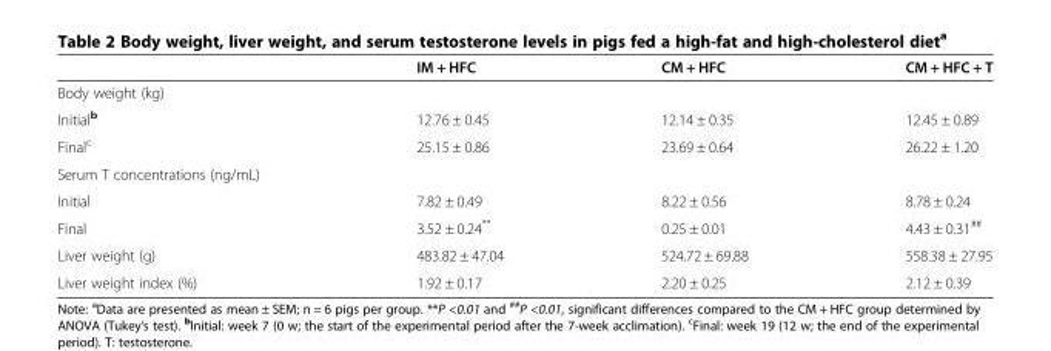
<table><thead><tr><td></td><td>IM + HFC</td><td>CM + HFC</td><td>CM + HFC + T</td></tr></thead><tbody><tr><td colspan="4">Body weight (kg)</td></tr><tr><td>Initial<sup>b</sup></td><td>12.76 ± 0.45</td><td>12.14 ± 0.35</td><td>12.45 ± 0.89</td></tr><tr><td>Final<sup>c</sup></td><td>25.15 ± 0.86</td><td>23.69 ± 0.64</td><td>26.22 ± 1.20</td></tr><tr><td colspan="4">Serum T concentrations (ng/mL)</td></tr><tr><td>Initial</td><td>7.82 ± 0.49</td><td>8.22 ± 0.56</td><td>8.78 ± 0.24</td></tr><tr><td>Final</td><td>3.52 ± 0.24**</td><td>0.25 ± 0.01</td><td>4.43 ± 0.31<sup>##</sup></td></tr><tr><td>Liver weight (g)</td><td>483.82 ± 47.04</td><td>524.72 ± 69.88</td><td>558.38 ± 27.95</td></tr><tr><td>Liver weight index (%)</td><td>1.92 ± 0.17</td><td>2.20 ± 0.25</td><td>2.12 ± 0.39</td></tr></tbody></table>